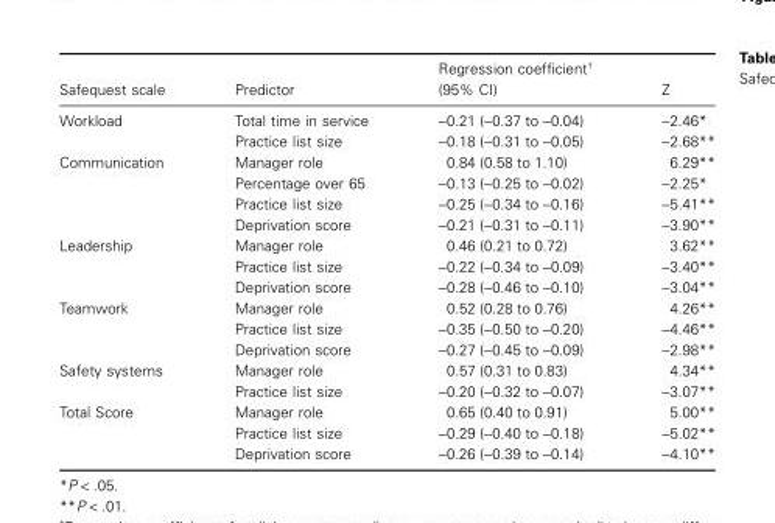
<table><thead><tr><td>Safequest scale</td><td>Predictor</td><td>Regression coefficient† (95% CI)</td><td>Z</td></tr></thead><tbody><tr><td>Workload</td><td>Total time in service Practice list size</td><td>−0.21 (−0.37 to −0.04) −0.18 (−0.31 to −0.05)</td><td>−2.46* −2.68**</td></tr><tr><td>Communication</td><td>Manager role Percentage over 65 Practice list size Deprivation score</td><td>0.84 (0.58 to 1.10) −0.13 (−0.25 to −0.02) −0.25 (−0.34 to −0.16) −0.21 (−0.31 to −0.11)</td><td>6.29** −2.25* −5.41** −3.90**</td></tr><tr><td>Leadership</td><td>Manager role Practice list size Deprivation score</td><td>0.46 (0.21 to 0.72) −0.22 (−0.34 to −0.09) −0.28 (−0.46 to −0.10)</td><td>3.62** −3.40** −3.04**</td></tr><tr><td>Teamwork</td><td>Manager role Practice list size Deprivation score</td><td>0.52 (0.28 to 0.76) −0.35 (−0.50 to −0.20) −0.27 (−0.45 to −0.09)</td><td>4.26** −4.46** −2.98**</td></tr><tr><td>Safety systems</td><td>Manager role Practice list size</td><td>0.57 (0.31 to 0.83) −0.20 (−0.32 to −0.07)</td><td>4.34** −3.07**</td></tr><tr><td>Total Score</td><td>Manager role Practice list size Deprivation score</td><td>0.65 (0.40 to 0.91) −0.29 (−0.40 to −0.18) −0.26 (−0.39 to −0.14)</td><td>5.00** −5.02** −4.10**</td></tr></tbody></table>